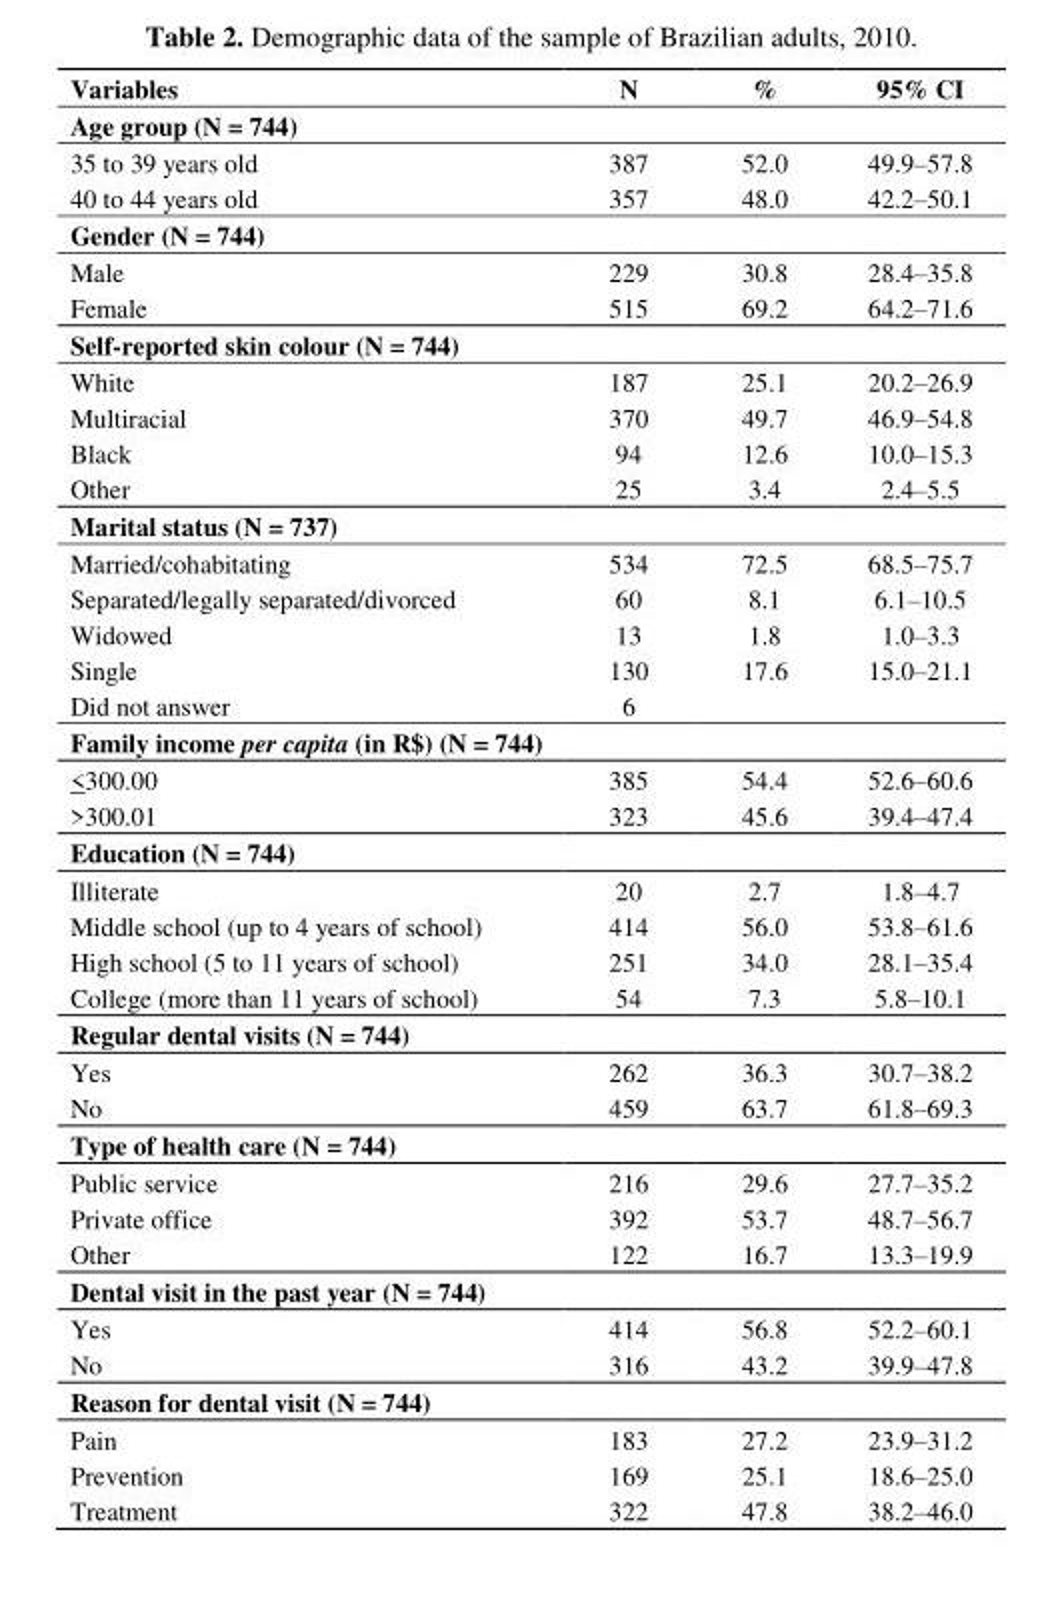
<table><thead><tr><td>Variables</td><td>N</td><td>%</td><td>95% CI</td></tr></thead><tbody><tr><td colspan="4">Age group (N = 744)</td></tr><tr><td>35 to 39 years old</td><td>387</td><td>52.0</td><td>49.9–57.8</td></tr><tr><td>40 to 44 years old</td><td>357</td><td>48.0</td><td>42.2–50.1</td></tr><tr><td colspan="4">Gender (N = 744)</td></tr><tr><td>Male</td><td>229</td><td>30.8</td><td>28.4–35.8</td></tr><tr><td>Female</td><td>515</td><td>69.2</td><td>64.2–71.6</td></tr><tr><td colspan="4">Self-reported skin colour (N = 744)</td></tr><tr><td>White</td><td>187</td><td>25.1</td><td>20.2–26.9</td></tr><tr><td>Multiracial</td><td>370</td><td>49.7</td><td>46.9–54.8</td></tr><tr><td>Black</td><td>94</td><td>12.6</td><td>10.0–15.3</td></tr><tr><td>Other</td><td>25</td><td>3.4</td><td>2.4–5.5</td></tr><tr><td colspan="4">Marital status (N = 737)</td></tr><tr><td>Married/cohabitating</td><td>534</td><td>72.5</td><td>68.5–75.7</td></tr><tr><td>Separated/legally separated/divorced</td><td>60</td><td>8.1</td><td>6.1–10.5</td></tr><tr><td>Widowed</td><td>13</td><td>1.8</td><td>1.0–3.3</td></tr><tr><td>Single</td><td>130</td><td>17.6</td><td>15.0–21.1</td></tr><tr><td>Did not answer</td><td>6</td><td></td><td></td></tr><tr><td colspan="4">Family income per capita (in R$) (N = 744)</td></tr><tr><td>&lt;300.00</td><td>385</td><td>54.4</td><td>52.6–60.6</td></tr><tr><td>&gt;300.01</td><td>323</td><td>45.6</td><td>39.4–47.4</td></tr><tr><td colspan="4">Education (N = 744)</td></tr><tr><td>Illiterate</td><td>20</td><td>2.7</td><td>1.8–4.7</td></tr><tr><td>Middle school (up to 4 years of school)</td><td>414</td><td>56.0</td><td>53.8–61.6</td></tr><tr><td>High school (5 to 11 years of school)</td><td>251</td><td>34.0</td><td>28.1–35.4</td></tr><tr><td>College (more than 11 years of school)</td><td>54</td><td>7.3</td><td>5.8–10.1</td></tr><tr><td colspan="4">Regular dental visits (N = 744)</td></tr><tr><td>Yes</td><td>262</td><td>36.3</td><td>30.7–38.2</td></tr><tr><td>No</td><td>459</td><td>63.7</td><td>61.8–69.3</td></tr><tr><td colspan="4">Type of health care (N = 744)</td></tr><tr><td>Public service</td><td>216</td><td>29.6</td><td>27.7–35.2</td></tr><tr><td>Private office</td><td>392</td><td>53.7</td><td>48.7–56.7</td></tr><tr><td>Other</td><td>122</td><td>16.7</td><td>13.3–19.9</td></tr><tr><td colspan="4">Dental visit in the past year (N = 744)</td></tr><tr><td>Yes</td><td>414</td><td>56.8</td><td>52.2–60.1</td></tr><tr><td>No</td><td>316</td><td>43.2</td><td>39.9–47.8</td></tr><tr><td colspan="4">Reason for dental visit (N = 744)</td></tr><tr><td>Pain</td><td>183</td><td>27.2</td><td>23.9–31.2</td></tr><tr><td>Prevention</td><td>169</td><td>25.1</td><td>18.6–25.0</td></tr><tr><td>Treatment</td><td>322</td><td>47.8</td><td>38.2–46.0</td></tr></tbody></table>